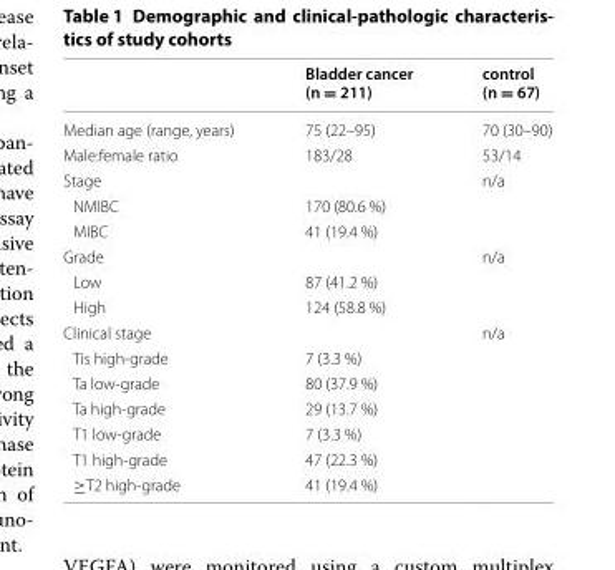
<table><thead><tr><td></td><td>Bladder cancer (n = 211)</td><td>control (n = 67)</td></tr></thead><tbody><tr><td>Median age (range, years)</td><td>75 (22–95)</td><td>70 (30–90)</td></tr><tr><td>Male:female ratio</td><td>183/28</td><td>53/14</td></tr><tr><td>Stage</td><td></td><td>n/a</td></tr><tr><td>NMIBC</td><td>170 (80.6 %)</td><td></td></tr><tr><td>MIBC</td><td>41 (19.4 %)</td><td></td></tr><tr><td>Grade</td><td></td><td>n/a</td></tr><tr><td>Low</td><td>87 (41.2 %)</td><td></td></tr><tr><td>High</td><td>124 (58.8 %)</td><td></td></tr><tr><td>Clinical stage</td><td></td><td>n/a</td></tr><tr><td>Tis high-grade</td><td>7 (3.3 %)</td><td></td></tr><tr><td>Ta low-grade</td><td>80 (37.9 %)</td><td></td></tr><tr><td>Ta high-grade</td><td>29 (13.7 %)</td><td></td></tr><tr><td>T1 low-grade</td><td>7 (3.3 %)</td><td></td></tr><tr><td>T1 high-grade</td><td>47 (22.3 %)</td><td></td></tr><tr><td>≥T2 high-grade</td><td>41 (19.4 %)</td><td></td></tr></tbody></table>